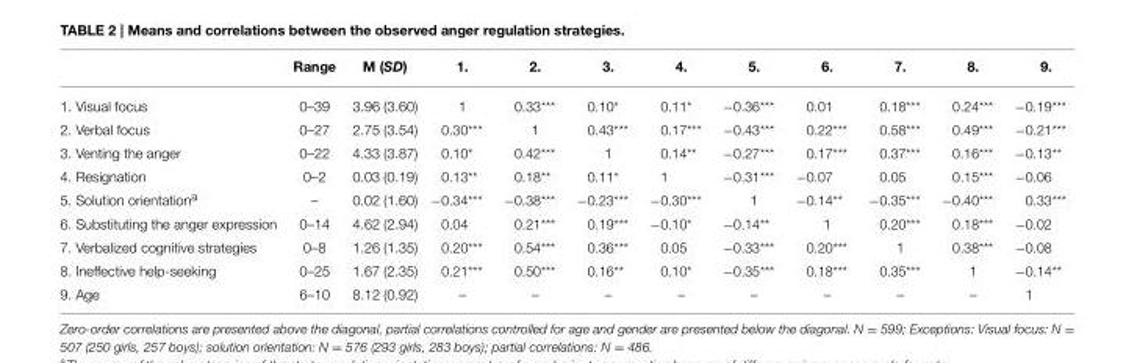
<table><thead><tr><td></td><td>Range</td><td>M (SD)</td><td>1.</td><td>2.</td><td>3.</td><td>4.</td><td>5.</td><td>6.</td><td>7.</td><td>8.</td><td>9.</td></tr></thead><tbody><tr><td>1. Visual focus</td><td>0–39</td><td>3.96 (3.60)</td><td>1</td><td>0.33***</td><td>0.10*</td><td>0.11*</td><td>−0.36***</td><td>0.01</td><td>0.18***</td><td>0.24***</td><td>−0.19***</td></tr><tr><td>2. Verbal focus</td><td>0–27</td><td>2.75 (3.54)</td><td>0.30***</td><td>1</td><td>0.43***</td><td>0.17***</td><td>−0.43***</td><td>0.22***</td><td>0.58***</td><td>0.49***</td><td>−0.21***</td></tr><tr><td>3. Venting the anger</td><td>0–22</td><td>4.33 (3.87)</td><td>0.10*</td><td>0.42***</td><td>1</td><td>0.14**</td><td>−0.27***</td><td>0.17***</td><td>0.37***</td><td>0.16***</td><td>−0.13**</td></tr><tr><td>4. Resignation</td><td>0–2</td><td>0.03 (0.19)</td><td>0.13**</td><td>0.18**</td><td>0.11*</td><td>1</td><td>−0.31***</td><td>−0.07</td><td>0.05</td><td>0.15***</td><td>−0.06</td></tr><tr><td>5. Solution orientation<sup>a</sup></td><td>–</td><td>0.02 (1.60)</td><td>−0.34***</td><td>−0.38***</td><td>−0.23***</td><td>−0.30***</td><td>1</td><td>−0.14**</td><td>−0.35***</td><td>−0.40***</td><td>0.33***</td></tr><tr><td>6. Substituting the anger expression</td><td>0–14</td><td>4.62 (2.94)</td><td>0.04</td><td>0.21***</td><td>0.19***</td><td>−0.10*</td><td>−0.14**</td><td>1</td><td>0.20***</td><td>0.18***</td><td>−0.02</td></tr><tr><td>7. Verbalized cognitive strategies</td><td>0–8</td><td>1.26 (1.35)</td><td>0.20***</td><td>0.54***</td><td>0.36***</td><td>0.05</td><td>−0.33***</td><td>0.20***</td><td>1</td><td>0.38***</td><td>−0.08</td></tr><tr><td>8. Ineffective help-seeking</td><td>0–25</td><td>1.67 (2.35)</td><td>0.21***</td><td>0.50***</td><td>0.16**</td><td>0.10*</td><td>−0.35***</td><td>0.18***</td><td>0.35***</td><td>1</td><td>−0.14**</td></tr><tr><td>9. Age</td><td>6–10</td><td>8.12 (0.92)</td><td>–</td><td>–</td><td>–</td><td>–</td><td>–</td><td>–</td><td>–</td><td>–</td><td>1</td></tr></tbody></table>